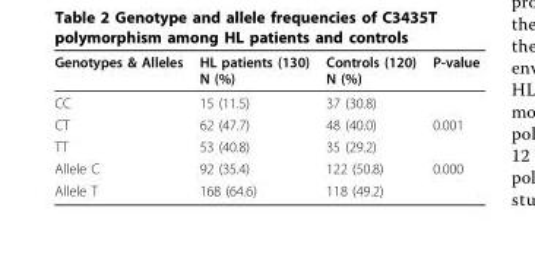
<table><thead><tr><td>Genotypes &amp; Alleles</td><td>HL patients (130) N (%)</td><td>Controls (120) N (%)</td><td>P-value</td></tr></thead><tbody><tr><td>CC</td><td>15 (11.5)</td><td>37 (30.8)</td><td></td></tr><tr><td>CT</td><td>62 (47.7)</td><td>48 (40.0)</td><td>0.001</td></tr><tr><td>TT</td><td>53 (40.8)</td><td>35 (29.2)</td><td></td></tr><tr><td>Allele C</td><td>92 (35.4)</td><td>122 (50.8)</td><td>0.000</td></tr><tr><td>Allele T</td><td>168 (64.6)</td><td>118 (49.2)</td><td></td></tr></tbody></table>